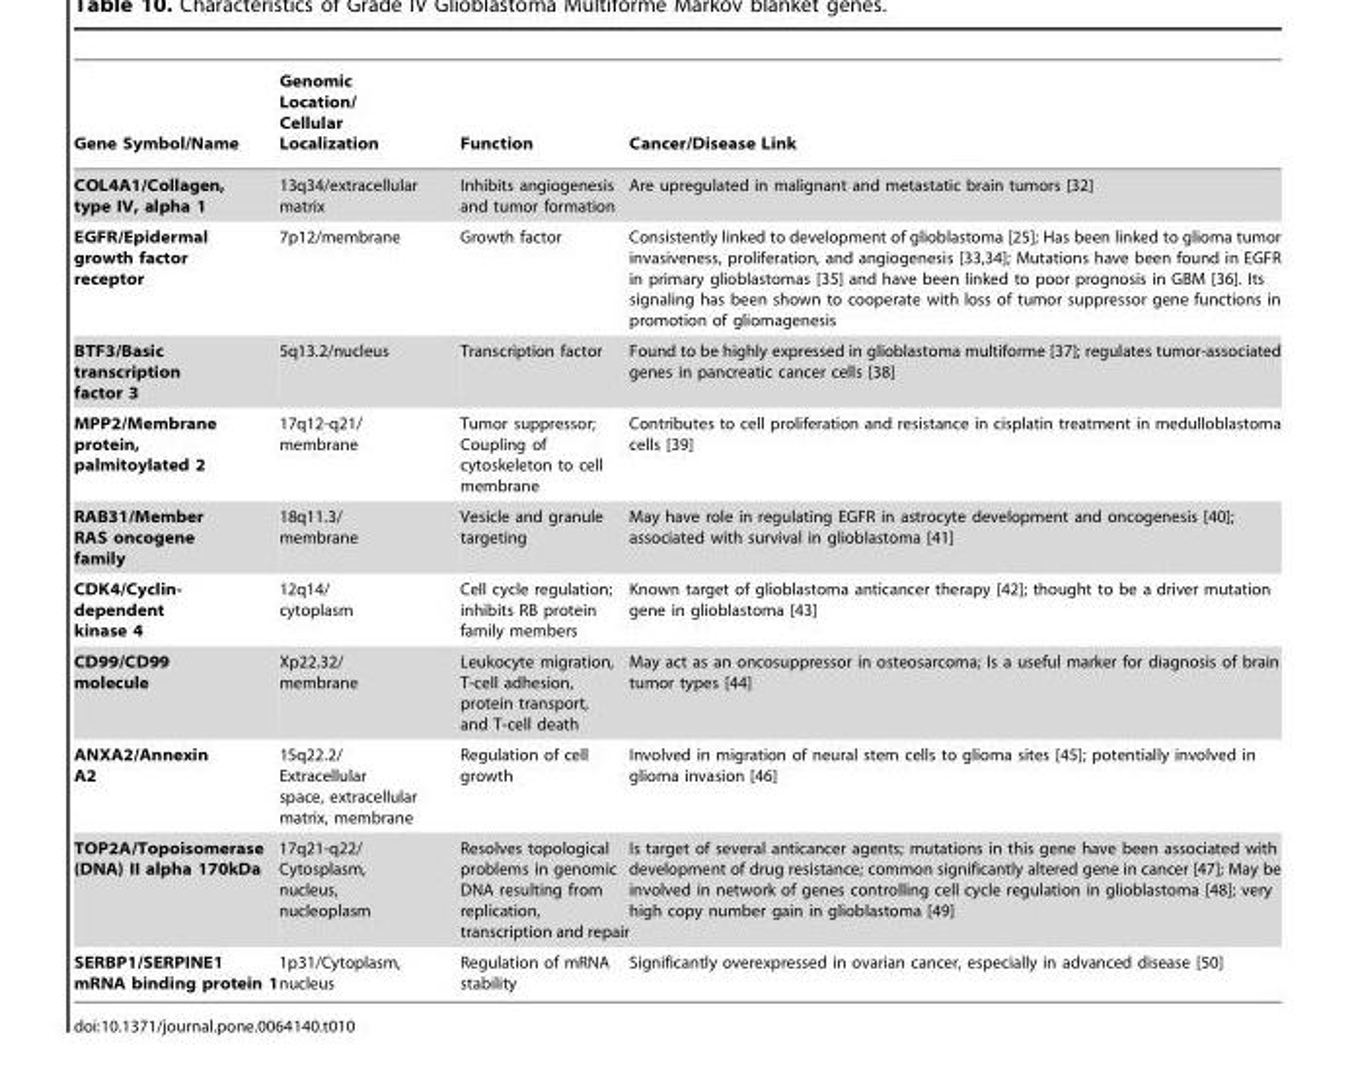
<table><thead><tr><td>Gene Symbol/Name</td><td>Genomic Location/ Cellular Localization</td><td>Function</td><td>Cancer/Disease Link</td></tr></thead><tbody><tr><td>COL4A1/Collagen, type IV, alpha 1</td><td>13q34/extracellular matrix</td><td>Inhibits angiogenesis and tumor formation</td><td>Are upregulated in malignant and metastatic brain tumors [32]</td></tr><tr><td>EGFR/Epidermal growth factor receptor</td><td>7p12/membrane</td><td>Growth factor</td><td>Consistently linked to development of glioblastoma [25]; Has been linked to glioma tumor invasiveness, proliferation, and angiogenesis [33,34]; Mutations have been found in EGFR in primary glioblastomas [35] and have been linked to poor prognosis in GBM [36]. Its signaling has been shown to cooperate with loss of tumor suppressor gene functions in promotion of gliomagenesis</td></tr><tr><td>BTF3/Basic transcription factor 3</td><td>5q13.2/nucleus</td><td>Transcription factor</td><td>Found to be highly expressed in glioblastoma multiforme [37]; regulates tumor-associated genes in pancreatic cancer cells [38]</td></tr><tr><td>MPP2/Membrane protein, palmitoylated 2</td><td>17q12-q21/ membrane</td><td>Tumor suppressor; Coupling of cytoskeleton to cell membrane</td><td>Contributes to cell proliferation and resistance in cisplatin treatment in medulloblastoma cells [39]</td></tr><tr><td>RAB31/Member RAS oncogene family</td><td>18q11.3/ membrane</td><td>Vesicle and granule targeting</td><td>May have role in regulating EGFR in astrocyte development and oncogenesis [40]; associated with survival in glioblastoma [41]</td></tr><tr><td>CDK4/Cyclin- dependent kinase 4</td><td>12q14/ cytoplasm</td><td>Cell cycle regulation; inhibits RB protein family members</td><td>Known target of glioblastoma anticancer therapy [42]; thought to be a driver mutation gene in glioblastoma [43]</td></tr><tr><td>CD99/CD99 molecule</td><td>Xp22.32/ membrane</td><td>Leukocyte migration, T-cell adhesion, protein transport, and T-cell death</td><td>May act as an oncosuppressor in osteosarcoma; Is a useful marker for diagnosis of brain tumor types [44]</td></tr><tr><td>ANXA2/Annexin A2</td><td>15q22.2/ Extracellular space, extracellular matrix, membrane</td><td>Regulation of cell growth</td><td>Involved in migration of neural stem cells to glioma sites [45]; potentially involved in glioma invasion [46]</td></tr><tr><td>TOP2A/Topoisomerase (DNA) II alpha 170kDa</td><td>17q21-q22/ Cytosplasm, nucleus, nucleoplasm</td><td>Resolves topological problems in genomic DNA resulting from replication, transcription and repair</td><td>Is target of several anticancer agents; mutations in this gene have been associated with development of drug resistance; common significantly altered gene in cancer [47]; May be involved in network of genes controlling cell cycle regulation in glioblastoma [48]; very high copy number gain in glioblastoma [49]</td></tr><tr><td>SERBP1/SERPINE1 mRNA binding protein 1</td><td>1p31/Cytoplasm, nucleus</td><td>Regulation of mRNA stability</td><td>Significantly overexpressed in ovarian cancer, especially in advanced disease [50]</td></tr></tbody></table>